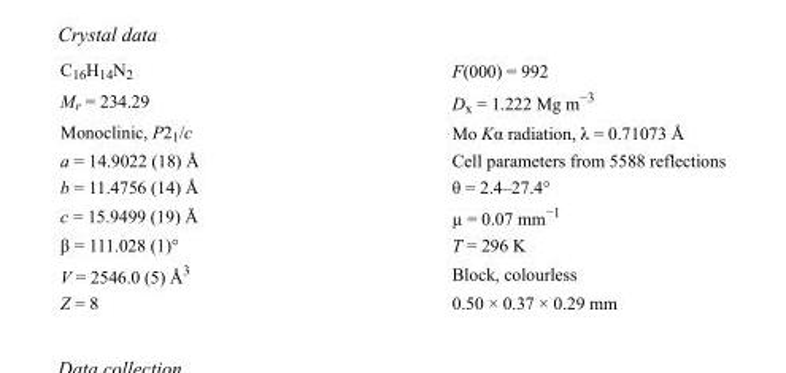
<table><tbody><tr><td>C<sub>16</sub>H<sub>14</sub>N<sub>2</sub></td><td>F(000) = 992</td></tr><tr><td>M<sub>r</sub> = 234.29</td><td>D<sub>x</sub> = 1.222 Mg m<sup>−3</sup></td></tr><tr><td>Monoclinic, P2<sub>1</sub>/c</td><td>Mo Kα radiation, λ = 0.71073 Å</td></tr><tr><td>a = 14.9022 (18) Å</td><td>Cell parameters from 5588 reflections</td></tr><tr><td>b = 11.4756 (14) Å</td><td>θ = 2.4–27.4°</td></tr><tr><td>c = 15.9499 (19) Å</td><td>µ = 0.07 mm<sup>−1</sup></td></tr><tr><td>β = 111.028 (1)°</td><td>T = 296 K</td></tr><tr><td>V = 2546.0 (5) Å<sup>3</sup></td><td>Block, colourless</td></tr><tr><td>Z = 8</td><td>0.50 × 0.37 × 0.29 mm</td></tr></tbody></table>